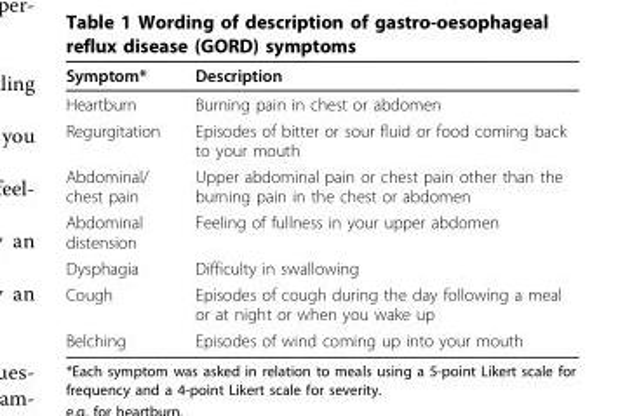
<table><thead><tr><td>Symptom*</td><td>Description</td></tr></thead><tbody><tr><td>Heartburn</td><td>Burning pain in chest or abdomen</td></tr><tr><td>Regurgitation</td><td>Episodes of bitter or sour fluid or food coming back to your mouth</td></tr><tr><td>Abdominal/ chest pain</td><td>Upper abdominal pain or chest pain other than the burning pain in the chest or abdomen</td></tr><tr><td>Abdominal distension</td><td>Feeling of fullness in your upper abdomen</td></tr><tr><td>Dysphagia</td><td>Difficulty in swallowing</td></tr><tr><td>Cough</td><td>Episodes of cough during the day following a meal or at night or when you wake up</td></tr><tr><td>Belching</td><td>Episodes of wind coming up into your mouth</td></tr></tbody></table>